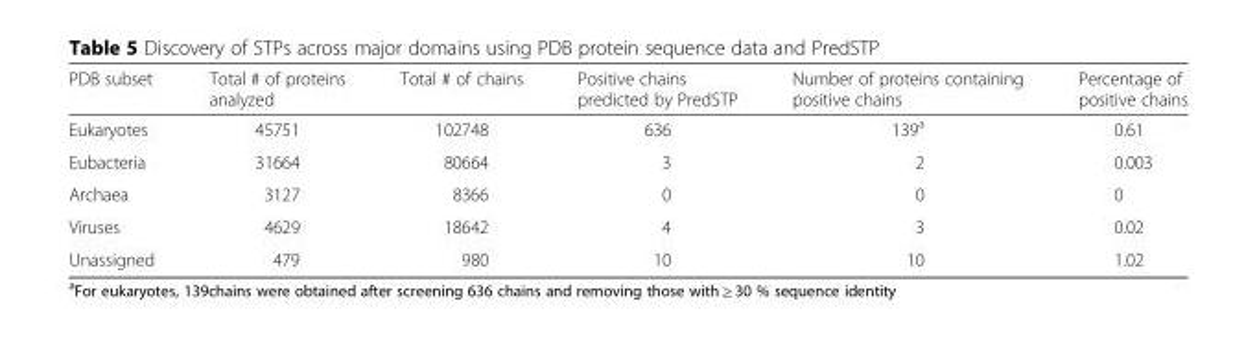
<table><thead><tr><td>PDB subset</td><td>Total # of proteins analyzed</td><td>Total # of chains</td><td>Positive chains predicted by PredSTP</td><td>Number of proteins containing positive chains</td><td>Percentage of positive chains</td></tr></thead><tbody><tr><td>Eukaryotes</td><td>45751</td><td>102748</td><td>636</td><td>139<sup>a</sup></td><td>0.61</td></tr><tr><td>Eubacteria</td><td>31664</td><td>80664</td><td>3</td><td>2</td><td>0.003</td></tr><tr><td>Archaea</td><td>3127</td><td>8366</td><td>0</td><td>0</td><td>0</td></tr><tr><td>Viruses</td><td>4629</td><td>18642</td><td>4</td><td>3</td><td>0.02</td></tr><tr><td>Unassigned</td><td>479</td><td>980</td><td>10</td><td>10</td><td>1.02</td></tr></tbody></table>